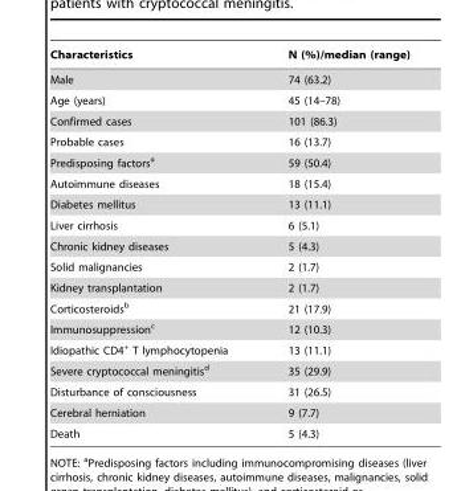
<table><thead><tr><td>Characteristics</td><td>N (%)/median (range)</td></tr></thead><tbody><tr><td>Male</td><td>74 (63.2)</td></tr><tr><td>Age (years)</td><td>45 (14–78)</td></tr><tr><td>Confirmed cases</td><td>101 (86.3)</td></tr><tr><td>Probable cases</td><td>16 (13.7)</td></tr><tr><td>Predisposing factors<sup>a</sup></td><td>59 (50.4)</td></tr><tr><td>Autoimmune diseases</td><td>18 (15.4)</td></tr><tr><td>Diabetes mellitus</td><td>13 (11.1)</td></tr><tr><td>Liver cirrhosis</td><td>6 (5.1)</td></tr><tr><td>Chronic kidney diseases</td><td>5 (4.3)</td></tr><tr><td>Solid malignancies</td><td>2 (1.7)</td></tr><tr><td>Kidney transplantation</td><td>2 (1.7)</td></tr><tr><td>Corticosteroids<sup>b</sup></td><td>21 (17.9)</td></tr><tr><td>Immunosuppression<sup>c</sup></td><td>12 (10.3)</td></tr><tr><td>Idiopathic CD4<sup>+</sup> T lymphocytopenia</td><td>13 (11.1)</td></tr><tr><td>Severe cryptococcal meningitis<sup>d</sup></td><td>35 (29.9)</td></tr><tr><td>Disturbance of consciousness</td><td>31 (26.5)</td></tr><tr><td>Cerebral herniation</td><td>9 (7.7)</td></tr><tr><td>Death</td><td>5 (4.3)</td></tr></tbody></table>